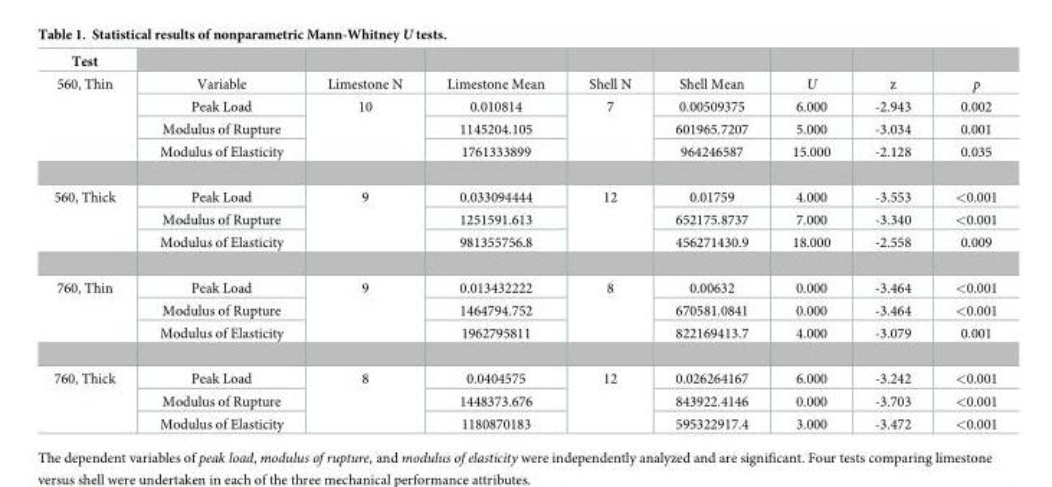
<table><thead><tr><td>Test</td><td></td><td></td><td></td><td></td><td></td><td></td><td></td><td></td></tr></thead><tbody><tr><td rowspan="4">560, Thin</td><td>Variable</td><td>Limestone N</td><td>Limestone Mean</td><td>Shell N</td><td>Shell Mean</td><td>U</td><td>z</td><td>p</td></tr><tr><td>Peak Load</td><td rowspan="3">10</td><td>0.010814</td><td rowspan="3">7</td><td>0.00509375</td><td>6.000</td><td>-2.943</td><td>0.002</td></tr><tr><td>Modulus of Rupture</td><td>1145204.105</td><td>601965.7207</td><td>5.000</td><td>-3.034</td><td>0.001</td></tr><tr><td>Modulus of Elasticity</td><td>1761333899</td><td>964246587</td><td>15.000</td><td>-2.128</td><td>0.035</td></tr><tr><td rowspan="3">560, Thick</td><td>Peak Load</td><td rowspan="3">9</td><td>0.033094444</td><td rowspan="3">12</td><td>0.01759</td><td>4.000</td><td>-3.553</td><td>&lt;0.001</td></tr><tr><td>Modulus of Rupture</td><td>1251591.613</td><td>652175.8737</td><td>7.000</td><td>-3.340</td><td>&lt;0.001</td></tr><tr><td>Modulus of Elasticity</td><td>981355756.8</td><td>456271430.9</td><td>18.000</td><td>-2.558</td><td>0.009</td></tr><tr><td rowspan="3">760, Thin</td><td>Peak Load</td><td rowspan="3">9</td><td>0.013432222</td><td rowspan="3">8</td><td>0.00632</td><td>0.000</td><td>-3.464</td><td>&lt;0.001</td></tr><tr><td>Modulus of Rupture</td><td>1464794.752</td><td>670581.0841</td><td>0.000</td><td>-3.464</td><td>&lt;0.001</td></tr><tr><td>Modulus of Elasticity</td><td>1962795811</td><td>822169413.7</td><td>4.000</td><td>-3.079</td><td>0.001</td></tr><tr><td rowspan="3">760, Thick</td><td>Peak Load</td><td rowspan="3">8</td><td>0.0404575</td><td rowspan="3">12</td><td>0.026264167</td><td>6.000</td><td>-3.242</td><td>&lt;0.001</td></tr><tr><td>Modulus of Rupture</td><td>1448373.676</td><td>843922.4146</td><td>0.000</td><td>-3.703</td><td>&lt;0.001</td></tr><tr><td>Modulus of Elasticity</td><td>1180870183</td><td>595322917.4</td><td>3.000</td><td>-3.472</td><td>&lt;0.001</td></tr></tbody></table>